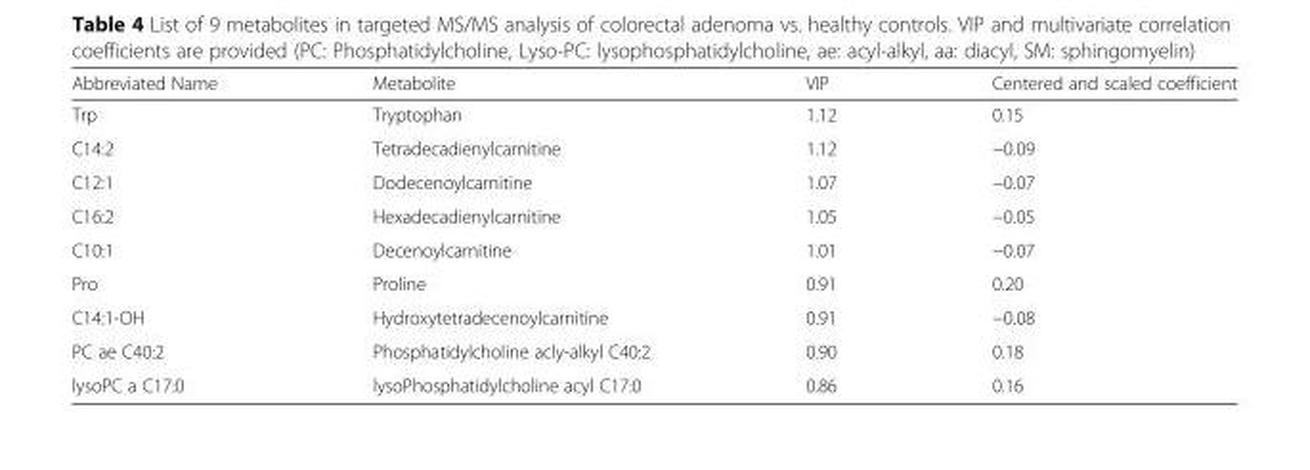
<table><thead><tr><td>Abbreviated Name</td><td>Metabolite</td><td>VIP</td><td>Centered and scaled coefficient</td></tr></thead><tbody><tr><td>Trp</td><td>Tryptophan</td><td>1.12</td><td>0.15</td></tr><tr><td>C14:2</td><td>Tetradecadienylcarnitine</td><td>1.12</td><td>−0.09</td></tr><tr><td>C12:1</td><td>Dodecenoylcarnitine</td><td>1.07</td><td>−0.07</td></tr><tr><td>C16:2</td><td>Hexadecadienylcarnitine</td><td>1.05</td><td>−0.05</td></tr><tr><td>C10:1</td><td>Decenoylcarnitine</td><td>1.01</td><td>−0.07</td></tr><tr><td>Pro</td><td>Proline</td><td>0.91</td><td>0.20</td></tr><tr><td>C14:1-OH</td><td>Hydroxytetradecenoylcarnitine</td><td>0.91</td><td>−0.08</td></tr><tr><td>PC ae C40:2</td><td>Phosphatidylcholine acly-alkyl C40:2</td><td>0.90</td><td>0.18</td></tr><tr><td>lysoPC a C17:0</td><td>lysoPhosphatidylcholine acyl C17:0</td><td>0.86</td><td>0.16</td></tr></tbody></table>